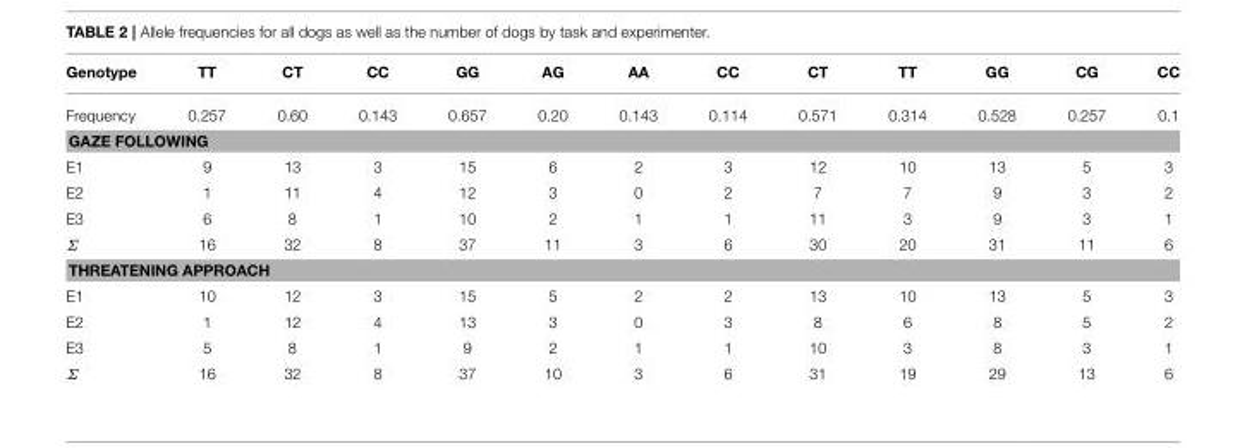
<table><thead><tr><td>Genotype</td><td>TT</td><td>CT</td><td>CC</td><td>GG</td><td>AG</td><td>AA</td><td>CC</td><td>CT</td><td>TT</td><td>GG</td><td>CG</td><td>CC</td></tr></thead><tbody><tr><td>Frequency</td><td>0.257</td><td>0.60</td><td>0.143</td><td>0.657</td><td>0.20</td><td>0.143</td><td>0.114</td><td>0.571</td><td>0.314</td><td>0.528</td><td>0.257</td><td>0.1</td></tr><tr><td colspan="13">GAZE FOLLOWING</td></tr><tr><td>E1</td><td>9</td><td>13</td><td>3</td><td>15</td><td>6</td><td>2</td><td>3</td><td>12</td><td>10</td><td>13</td><td>5</td><td>3</td></tr><tr><td>E2</td><td>1</td><td>11</td><td>4</td><td>12</td><td>3</td><td>0</td><td>2</td><td>7</td><td>7</td><td>9</td><td>3</td><td>2</td></tr><tr><td>E3</td><td>6</td><td>8</td><td>1</td><td>10</td><td>2</td><td>1</td><td>1</td><td>11</td><td>3</td><td>9</td><td>3</td><td>1</td></tr><tr><td>Σ</td><td>16</td><td>32</td><td>8</td><td>37</td><td>11</td><td>3</td><td>6</td><td>30</td><td>20</td><td>31</td><td>11</td><td>6</td></tr><tr><td colspan="13">THREATENING APPROACH</td></tr><tr><td>E1</td><td>10</td><td>12</td><td>3</td><td>15</td><td>5</td><td>2</td><td>2</td><td>13</td><td>10</td><td>13</td><td>5</td><td>3</td></tr><tr><td>E2</td><td>1</td><td>12</td><td>4</td><td>13</td><td>3</td><td>0</td><td>3</td><td>8</td><td>6</td><td>8</td><td>5</td><td>2</td></tr><tr><td>E3</td><td>5</td><td>8</td><td>1</td><td>9</td><td>2</td><td>1</td><td>1</td><td>10</td><td>3</td><td>8</td><td>3</td><td>1</td></tr><tr><td>Σ</td><td>16</td><td>32</td><td>8</td><td>37</td><td>10</td><td>3</td><td>6</td><td>31</td><td>19</td><td>29</td><td>13</td><td>6</td></tr></tbody></table>